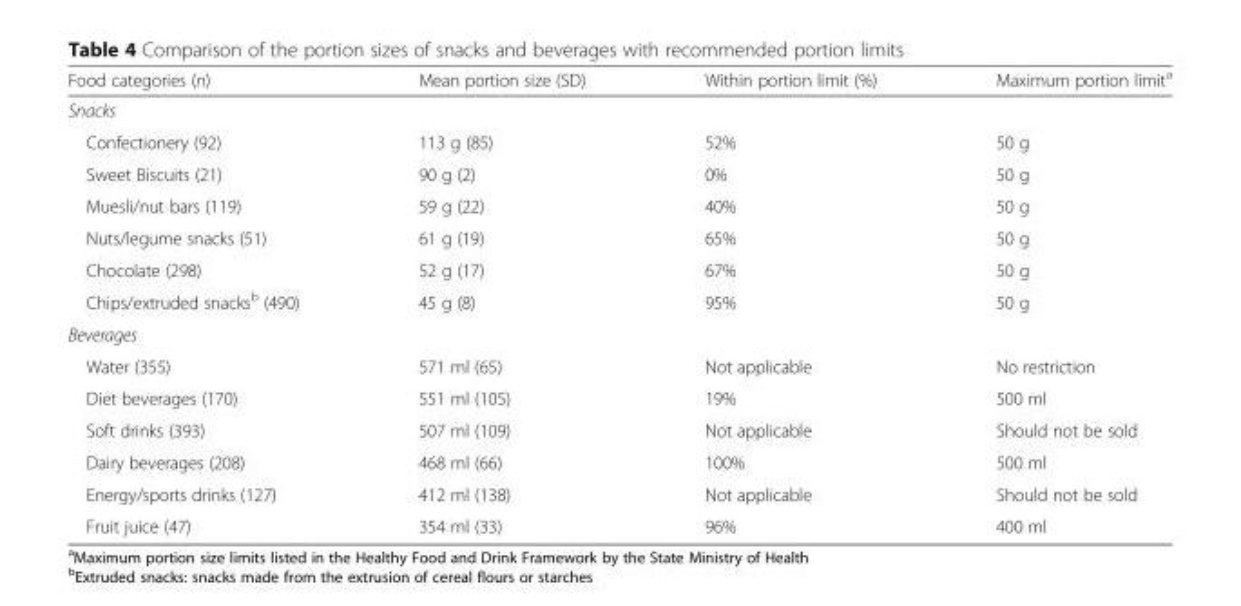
<table><thead><tr><td>Food categories (n)</td><td>Mean portion size (SD)</td><td>Within portion limit (%)</td><td>Maximum portion limit<sup>a</sup></td></tr></thead><tbody><tr><td colspan="4">Snacks</td></tr><tr><td>Confectionery (92)</td><td>113 g (85)</td><td>52%</td><td>50 g</td></tr><tr><td>Sweet Biscuits (21)</td><td>90 g (2)</td><td>0%</td><td>50 g</td></tr><tr><td>Muesli/nut bars (119)</td><td>59 g (22)</td><td>40%</td><td>50 g</td></tr><tr><td>Nuts/legume snacks (51)</td><td>61 g (19)</td><td>65%</td><td>50 g</td></tr><tr><td>Chocolate (298)</td><td>52 g (17)</td><td>67%</td><td>50 g</td></tr><tr><td>Chips/extruded snacks<sup>b</sup> (490)</td><td>45 g (8)</td><td>95%</td><td>50 g</td></tr><tr><td colspan="4">Beverages</td></tr><tr><td>Water (355)</td><td>571 ml (65)</td><td>Not applicable</td><td>No restriction</td></tr><tr><td>Diet beverages (170)</td><td>551 ml (105)</td><td>19%</td><td>500 ml</td></tr><tr><td>Soft drinks (393)</td><td>507 ml (109)</td><td>Not applicable</td><td>Should not be sold</td></tr><tr><td>Dairy beverages (208)</td><td>468 ml (66)</td><td>100%</td><td>500 ml</td></tr><tr><td>Energy/sports drinks (127)</td><td>412 ml (138)</td><td>Not applicable</td><td>Should not be sold</td></tr><tr><td>Fruit juice (47)</td><td>354 ml (33)</td><td>96%</td><td>400 ml</td></tr></tbody></table>